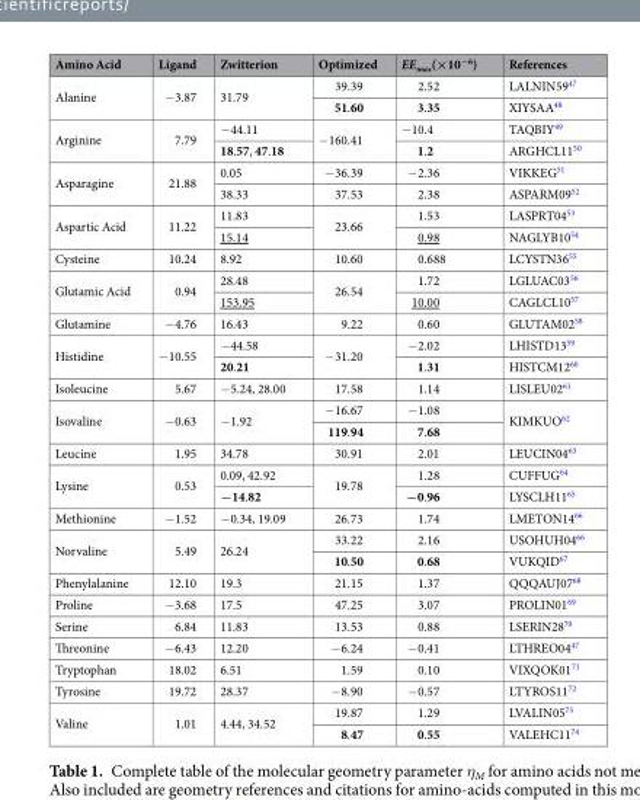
<table><thead><tr><td>Amino Acid</td><td>Ligand</td><td>Zwitterion</td><td>Optimized</td><td>EE<sub>max</sub>(×10<sup>−6</sup>)</td><td>References</td></tr></thead><tbody><tr><td rowspan="2">Alanine</td><td rowspan="2">−3.87</td><td rowspan="2">31.79</td><td>39.39</td><td>2.52</td><td>LALNIN59<sup>47</sup></td></tr><tr><td>51.60</td><td>3.35</td><td>XIYSAA<sup>48</sup></td></tr><tr><td rowspan="2">Arginine</td><td rowspan="2">7.79</td><td>−44.11</td><td rowspan="2">−160.41</td><td>−10.4</td><td>TAQBIY<sup>49</sup></td></tr><tr><td>18.57, 47.18</td><td>1.2</td><td>ARGHCL11<sup>50</sup></td></tr><tr><td rowspan="2">Asparagine</td><td rowspan="2">21.88</td><td>0.05</td><td>−36.39</td><td>−2.36</td><td>VIKKEG<sup>51</sup></td></tr><tr><td>38.33</td><td>37.53</td><td>2.38</td><td>ASPARM09<sup>52</sup></td></tr><tr><td rowspan="2">Aspartic Acid</td><td rowspan="2">11.22</td><td>11.83</td><td rowspan="2">23.66</td><td>1.53</td><td>LASPRT04<sup>53</sup></td></tr><tr><td>15.14</td><td>0.98</td><td>NAGLYB10<sup>54</sup></td></tr><tr><td>Cysteine</td><td>10.24</td><td>8.92</td><td>10.60</td><td>0.688</td><td>LCYSTN36<sup>55</sup></td></tr><tr><td rowspan="2">Glutamic Acid</td><td rowspan="2">0.94</td><td>28.48</td><td rowspan="2">26.54</td><td>1.72</td><td>LGLUAC03<sup>56</sup></td></tr><tr><td>153.95</td><td>10.00</td><td>CAGLCL10<sup>57</sup></td></tr><tr><td>Glutamine</td><td>−4.76</td><td>16.43</td><td>9.22</td><td>0.60</td><td>GLUTAM02<sup>58</sup></td></tr><tr><td rowspan="2">Histidine</td><td rowspan="2">−10.55</td><td>−44.58</td><td rowspan="2">−31.20</td><td>−2.02</td><td>LHISTD13<sup>59</sup></td></tr><tr><td>20.21</td><td>1.31</td><td>HISTCM12<sup>60</sup></td></tr><tr><td>Isoleucine</td><td>5.67</td><td>−5.24, 28.00</td><td>17.58</td><td>1.14</td><td>LISLEU02<sup>61</sup></td></tr><tr><td rowspan="2">Isovaline</td><td rowspan="2">−0.63</td><td rowspan="2">−1.92</td><td>−16.67</td><td>−1.08</td><td rowspan="2">KIMKUO<sup>62</sup></td></tr><tr><td>119.94</td><td>7.68</td></tr><tr><td>Leucine</td><td>1.95</td><td>34.78</td><td>30.91</td><td>2.01</td><td>LEUCIN04<sup>63</sup></td></tr><tr><td rowspan="2">Lysine</td><td rowspan="2">0.53</td><td>0.09, 42.92</td><td rowspan="2">19.78</td><td>1.28</td><td>CUFFUG<sup>64</sup></td></tr><tr><td>−14.82</td><td>−0.96</td><td>LYSCLH11<sup>65</sup></td></tr><tr><td>Methionine</td><td>−1.52</td><td>−0.34, 19.09</td><td>26.73</td><td>1.74</td><td>LMETON14<sup>66</sup></td></tr><tr><td rowspan="2">Norvaline</td><td rowspan="2">5.49</td><td rowspan="2">26.24</td><td>33.22</td><td>2.16</td><td>USOHUH04<sup>66</sup></td></tr><tr><td>10.50</td><td>0.68</td><td>VUKQID<sup>67</sup></td></tr><tr><td>Phenylalanine</td><td>12.10</td><td>19.3</td><td>21.15</td><td>1.37</td><td>QQQAUJ07<sup>68</sup></td></tr><tr><td>Proline</td><td>−3.68</td><td>17.5</td><td>47.25</td><td>3.07</td><td>PROLIN01<sup>69</sup></td></tr><tr><td>Serine</td><td>6.84</td><td>11.83</td><td>13.53</td><td>0.88</td><td>LSERIN28<sup>70</sup></td></tr><tr><td>Threonine</td><td>−6.43</td><td>12.20</td><td>−6.24</td><td>−0.41</td><td>LTHREO04<sup>47</sup></td></tr><tr><td>Tryptophan</td><td>18.02</td><td>6.51</td><td>1.59</td><td>0.10</td><td>VIXQOK01<sup>71</sup></td></tr><tr><td>Tyrosine</td><td>19.72</td><td>28.37</td><td>−8.90</td><td>−0.57</td><td>LTYROS11<sup>72</sup></td></tr><tr><td rowspan="2">Valine</td><td rowspan="2">1.01</td><td rowspan="2">4.44, 34.52</td><td>19.87</td><td>1.29</td><td>LVALIN05<sup>73</sup></td></tr><tr><td>8.47</td><td>0.55</td><td>VALEHC11<sup>74</sup></td></tr></tbody></table>